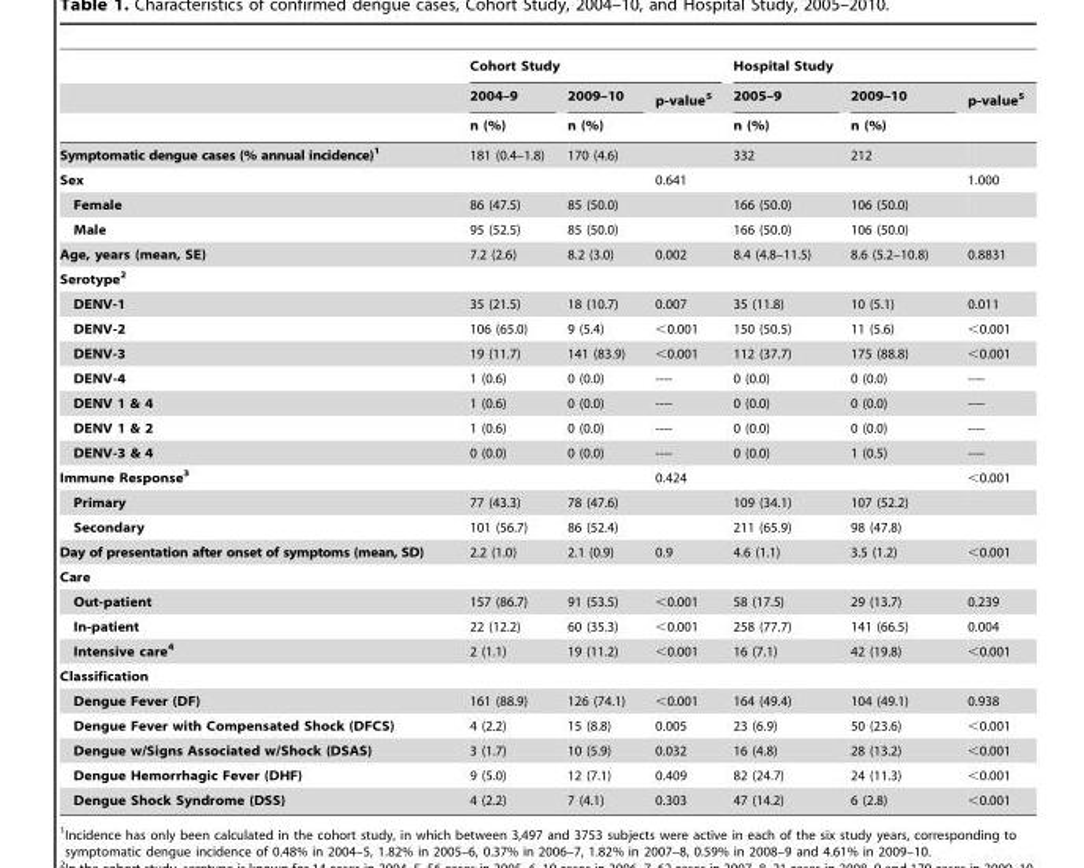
<table><thead><tr><td rowspan="3"></td><td colspan="3">Cohort Study</td><td colspan="3">Hospital Study</td></tr><tr><td rowspan="2">2004–9 n (%)</td><td rowspan="2">2009–10 n (%)</td><td rowspan="2">p-value<sup>5</sup></td><td rowspan="2">2005–9 n (%)</td><td rowspan="2">2009–10 n (%)</td><td rowspan="2">p-value<sup>5</sup></td></tr><tr></tr></thead><tbody><tr><td>Symptomatic dengue cases (% annual incidence)1</td><td>181 (0.4–1.8)</td><td>170 (4.6)</td><td></td><td>332</td><td>212</td><td></td></tr><tr><td>Sex</td><td></td><td></td><td>0.641</td><td></td><td></td><td>1.000</td></tr><tr><td>Female</td><td>86 (47.5)</td><td>85 (50.0)</td><td></td><td>166 (50.0)</td><td>106 (50.0)</td><td></td></tr><tr><td>Male</td><td>95 (52.5)</td><td>85 (50.0)</td><td></td><td>166 (50.0)</td><td>106 (50.0)</td><td></td></tr><tr><td>Age, years (mean, SE)</td><td>7.2 (2.6)</td><td>8.2 (3.0)</td><td>0.002</td><td>8.4 (4.8–11.5)</td><td>8.6 (5.2–10.8)</td><td>0.8831</td></tr><tr><td colspan="7">Serotype2</td></tr><tr><td>DENV-1</td><td>35 (21.5)</td><td>18 (10.7)</td><td>0.007</td><td>35 (11.8)</td><td>10 (5.1)</td><td>0.011</td></tr><tr><td>DENV-2</td><td>106 (65.0)</td><td>9 (5.4)</td><td>&lt;0.001</td><td>150 (50.5)</td><td>11 (5.6)</td><td>&lt;0.001</td></tr><tr><td>DENV-3</td><td>19 (11.7)</td><td>141 (83.9)</td><td>&lt;0.001</td><td>112 (37.7)</td><td>175 (88.8)</td><td>&lt;0.001</td></tr><tr><td>DENV-4</td><td>1 (0.6)</td><td>0 (0.0)</td><td>----</td><td>0 (0.0)</td><td>0 (0.0)</td><td>----</td></tr><tr><td>DENV 1 &amp; 4</td><td>1 (0.6)</td><td>0 (0.0)</td><td>----</td><td>0 (0.0)</td><td>0 (0.0)</td><td>----</td></tr><tr><td>DENV 1 &amp; 2</td><td>1 (0.6)</td><td>0 (0.0)</td><td>----</td><td>0 (0.0)</td><td>0 (0.0)</td><td>----</td></tr><tr><td>DENV-3 &amp; 4</td><td>0 (0.0)</td><td>0 (0.0)</td><td>----</td><td>0 (0.0)</td><td>1 (0.5)</td><td>----</td></tr><tr><td>Immune Response3</td><td></td><td></td><td>0.424</td><td></td><td></td><td>&lt;0.001</td></tr><tr><td>Primary</td><td>77 (43.3)</td><td>78 (47.6)</td><td></td><td>109 (34.1)</td><td>107 (52.2)</td><td></td></tr><tr><td>Secondary</td><td>101 (56.7)</td><td>86 (52.4)</td><td></td><td>211 (65.9)</td><td>98 (47.8)</td><td></td></tr><tr><td>Day of presentation after onset of symptoms (mean, SD)</td><td>2.2 (1.0)</td><td>2.1 (0.9)</td><td>0.9</td><td>4.6 (1.1)</td><td>3.5 (1.2)</td><td>&lt;0.001</td></tr><tr><td colspan="7">Care</td></tr><tr><td>Out-patient</td><td>157 (86.7)</td><td>91 (53.5)</td><td>&lt;0.001</td><td>58 (17.5)</td><td>29 (13.7)</td><td>0.239</td></tr><tr><td>In-patient</td><td>22 (12.2)</td><td>60 (35.3)</td><td>&lt;0.001</td><td>258 (77.7)</td><td>141 (66.5)</td><td>0.004</td></tr><tr><td>Intensive care4</td><td>2 (1.1)</td><td>19 (11.2)</td><td>&lt;0.001</td><td>16 (7.1)</td><td>42 (19.8)</td><td>&lt;0.001</td></tr><tr><td colspan="7">Classification</td></tr><tr><td>Dengue Fever (DF)</td><td>161 (88.9)</td><td>126 (74.1)</td><td>&lt;0.001</td><td>164 (49.4)</td><td>104 (49.1)</td><td>0.938</td></tr><tr><td>Dengue Fever with Compensated Shock (DFCS)</td><td>4 (2.2)</td><td>15 (8.8)</td><td>0.005</td><td>23 (6.9)</td><td>50 (23.6)</td><td>&lt;0.001</td></tr><tr><td>Dengue w/Signs Associated w/Shock (DSAS)</td><td>3 (1.7)</td><td>10 (5.9)</td><td>0.032</td><td>16 (4.8)</td><td>28 (13.2)</td><td>&lt;0.001</td></tr><tr><td>Dengue Hemorrhagic Fever (DHF)</td><td>9 (5.0)</td><td>12 (7.1)</td><td>0.409</td><td>82 (24.7)</td><td>24 (11.3)</td><td>&lt;0.001</td></tr><tr><td>Dengue Shock Syndrome (DSS)</td><td>4 (2.2)</td><td>7 (4.1)</td><td>0.303</td><td>47 (14.2)</td><td>6 (2.8)</td><td>&lt;0.001</td></tr></tbody></table>